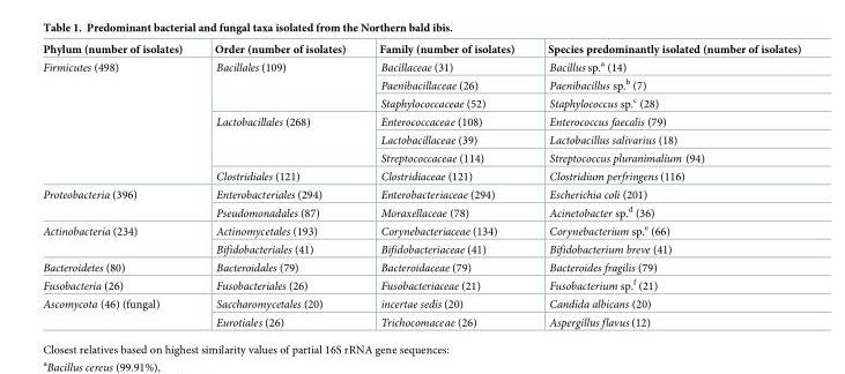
<table><thead><tr><td>Phylum (number of isolates)</td><td>Order (number of isolates)</td><td>Family (number of isolates)</td><td>Species predominantly isolated (number of isolates)</td></tr></thead><tbody><tr><td rowspan="7">Firmicutes (498)</td><td rowspan="3">Bacillales (109)</td><td>Bacillaceae (31)</td><td>Bacillus sp.<sup>a</sup> (14)</td></tr><tr><td>Paenibacillaceae (26)</td><td>Paenibacillus sp.<sup>b</sup> (7)</td></tr><tr><td>Staphylococcaceae (52)</td><td>Staphylococcus sp.<sup>c</sup> (28)</td></tr><tr><td rowspan="3">Lactobacillales (268)</td><td>Enterococcaceae (108)</td><td>Enterococcus faecalis (79)</td></tr><tr><td>Lactobacillaceae (39)</td><td>Lactobacillus salivarius (18)</td></tr><tr><td>Streptococcaceae (114)</td><td>Streptococcus pluranimalium (94)</td></tr><tr><td>Clostridiales (121)</td><td>Clostridiaceae (121)</td><td>Clostridium perfringens (116)</td></tr><tr><td rowspan="2">Proteobacteria (396)</td><td>Enterobacteriales (294)</td><td>Enterobacteriaceae (294)</td><td>Escherichia coli (201)</td></tr><tr><td>Pseudomonadales (87)</td><td>Moraxellaceae (78)</td><td>Acinetobacter sp.<sup>d</sup> (36)</td></tr><tr><td rowspan="2">Actinobacteria (234)</td><td>Actinomycetales (193)</td><td>Corynebacteriaceae (134)</td><td>Corynebacterium sp.<sup>e</sup> (66)</td></tr><tr><td>Bifidobacteriales (41)</td><td>Bifidobacteriaceae (41)</td><td>Bifidobacterium breve (41)</td></tr><tr><td>Bacteroidetes (80)</td><td>Bacteroidales (79)</td><td>Bacteroidaceae (79)</td><td>Bacteroides fragilis (79)</td></tr><tr><td>Fusobacteria (26)</td><td>Fusobacteriales (26)</td><td>Fusobacteriaceae (21)</td><td>Fusobacterium sp.<sup>f</sup> (21)</td></tr><tr><td rowspan="2">Ascomycota (46) (fungal)</td><td>Saccharomycetales (20)</td><td>incertae sedis (20)</td><td>Candida albicans (20)</td></tr><tr><td>Eurotiales (26)</td><td>Trichocomaceae (26)</td><td>Aspergillus flavus (12)</td></tr></tbody></table>